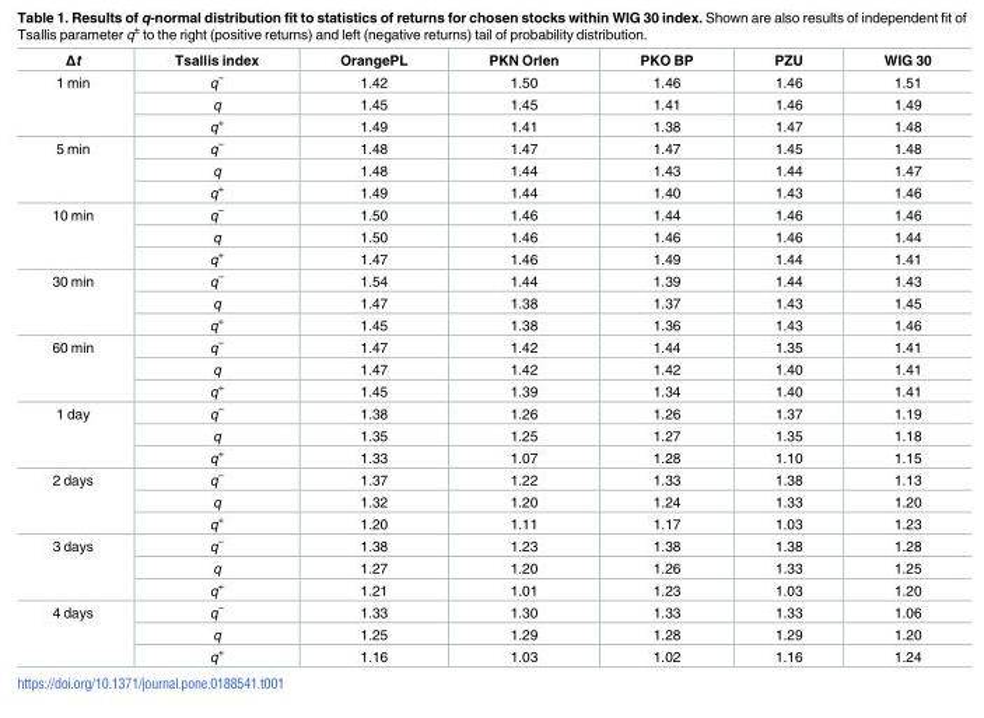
<table><thead><tr><td>Δt</td><td>Tsallis index</td><td>OrangePL</td><td>PKN Orlen</td><td>PKO BP</td><td>PZU</td><td>WIG 30</td></tr></thead><tbody><tr><td rowspan="3">1 min</td><td>q<sup>−</sup></td><td>1.42</td><td>1.50</td><td>1.46</td><td>1.46</td><td>1.51</td></tr><tr><td>q</td><td>1.45</td><td>1.45</td><td>1.41</td><td>1.46</td><td>1.49</td></tr><tr><td>q<sup>+</sup></td><td>1.49</td><td>1.41</td><td>1.38</td><td>1.47</td><td>1.48</td></tr><tr><td rowspan="3">5 min</td><td>q<sup>−</sup></td><td>1.48</td><td>1.47</td><td>1.47</td><td>1.45</td><td>1.48</td></tr><tr><td>q</td><td>1.48</td><td>1.44</td><td>1.43</td><td>1.44</td><td>1.47</td></tr><tr><td>q<sup>+</sup></td><td>1.49</td><td>1.44</td><td>1.40</td><td>1.43</td><td>1.46</td></tr><tr><td rowspan="3">10 min</td><td>q<sup>−</sup></td><td>1.50</td><td>1.46</td><td>1.44</td><td>1.46</td><td>1.46</td></tr><tr><td>q</td><td>1.50</td><td>1.46</td><td>1.46</td><td>1.46</td><td>1.44</td></tr><tr><td>q<sup>+</sup></td><td>1.47</td><td>1.46</td><td>1.49</td><td>1.44</td><td>1.41</td></tr><tr><td rowspan="3">30 min</td><td>q<sup>−</sup></td><td>1.54</td><td>1.44</td><td>1.39</td><td>1.44</td><td>1.43</td></tr><tr><td>q</td><td>1.47</td><td>1.38</td><td>1.37</td><td>1.43</td><td>1.45</td></tr><tr><td>q<sup>+</sup></td><td>1.45</td><td>1.38</td><td>1.36</td><td>1.43</td><td>1.46</td></tr><tr><td rowspan="3">60 min</td><td>q<sup>−</sup></td><td>1.47</td><td>1.42</td><td>1.44</td><td>1.35</td><td>1.41</td></tr><tr><td>q</td><td>1.47</td><td>1.42</td><td>1.42</td><td>1.40</td><td>1.41</td></tr><tr><td>q<sup>+</sup></td><td>1.45</td><td>1.39</td><td>1.34</td><td>1.40</td><td>1.41</td></tr><tr><td rowspan="3">1 day</td><td>q<sup>−</sup></td><td>1.38</td><td>1.26</td><td>1.26</td><td>1.37</td><td>1.19</td></tr><tr><td>q</td><td>1.35</td><td>1.25</td><td>1.27</td><td>1.35</td><td>1.18</td></tr><tr><td>q<sup>+</sup></td><td>1.33</td><td>1.07</td><td>1.28</td><td>1.10</td><td>1.15</td></tr><tr><td rowspan="3">2 days</td><td>q<sup>−</sup></td><td>1.37</td><td>1.22</td><td>1.33</td><td>1.38</td><td>1.13</td></tr><tr><td>q</td><td>1.32</td><td>1.20</td><td>1.24</td><td>1.33</td><td>1.20</td></tr><tr><td>q<sup>+</sup></td><td>1.20</td><td>1.11</td><td>1.17</td><td>1.03</td><td>1.23</td></tr><tr><td rowspan="3">3 days</td><td>q<sup>−</sup></td><td>1.38</td><td>1.23</td><td>1.38</td><td>1.38</td><td>1.28</td></tr><tr><td>q</td><td>1.27</td><td>1.20</td><td>1.26</td><td>1.33</td><td>1.25</td></tr><tr><td>q<sup>+</sup></td><td>1.21</td><td>1.01</td><td>1.23</td><td>1.03</td><td>1.20</td></tr><tr><td rowspan="3">4 days</td><td>q<sup>−</sup></td><td>1.33</td><td>1.30</td><td>1.33</td><td>1.33</td><td>1.06</td></tr><tr><td>q</td><td>1.25</td><td>1.29</td><td>1.28</td><td>1.29</td><td>1.20</td></tr><tr><td>q<sup>+</sup></td><td>1.16</td><td>1.03</td><td>1.02</td><td>1.16</td><td>1.24</td></tr></tbody></table>